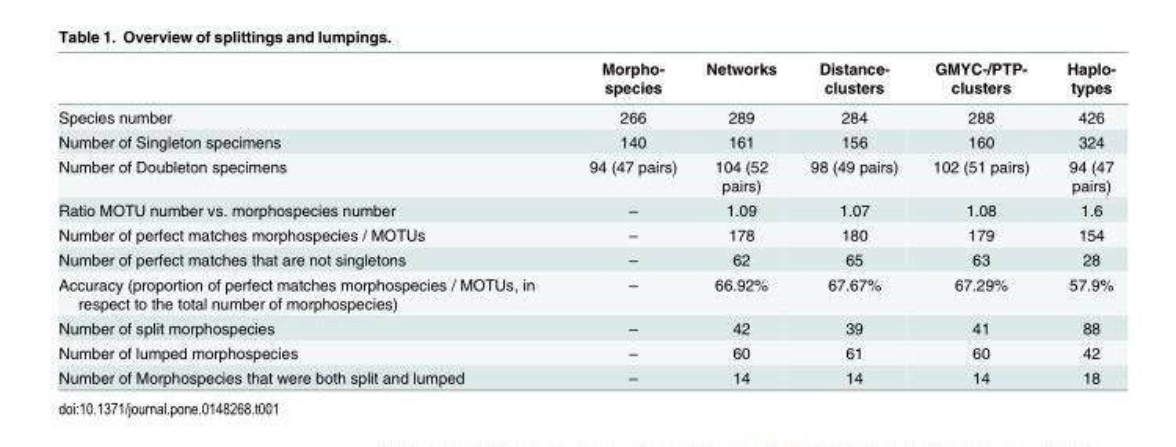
<table><thead><tr><td></td><td>Morpho- species</td><td>Networks</td><td>Distance- clusters</td><td>GMYC-/PTP- clusters</td><td>Haplo- types</td></tr></thead><tbody><tr><td>Species number</td><td>266</td><td>289</td><td>284</td><td>288</td><td>426</td></tr><tr><td>Number of Singleton specimens</td><td>140</td><td>161</td><td>156</td><td>160</td><td>324</td></tr><tr><td>Number of Doubleton specimens</td><td>94 (47 pairs)</td><td>104 (52 pairs)</td><td>98 (49 pairs)</td><td>102 (51 pairs)</td><td>94 (47 pairs)</td></tr><tr><td>Ratio MOTU number vs. morphospecies number</td><td>–</td><td>1.09</td><td>1.07</td><td>1.08</td><td>1.6</td></tr><tr><td>Number of perfect matches morphospecies / MOTUs</td><td>–</td><td>178</td><td>180</td><td>179</td><td>154</td></tr><tr><td>Number of perfect matches that are not singletons</td><td>–</td><td>62</td><td>65</td><td>63</td><td>28</td></tr><tr><td>Accuracy (proportion of perfect matches morphospecies / MOTUs, in respect to the total number of morphospecies)</td><td>–</td><td>66.92%</td><td>67.67%</td><td>67.29%</td><td>57.9%</td></tr><tr><td>Number of split morphospecies</td><td>–</td><td>42</td><td>39</td><td>41</td><td>88</td></tr><tr><td>Number of lumped morphospecies</td><td>–</td><td>60</td><td>61</td><td>60</td><td>42</td></tr><tr><td>Number of Morphospecies that were both split and lumped</td><td>–</td><td>14</td><td>14</td><td>14</td><td>18</td></tr></tbody></table>